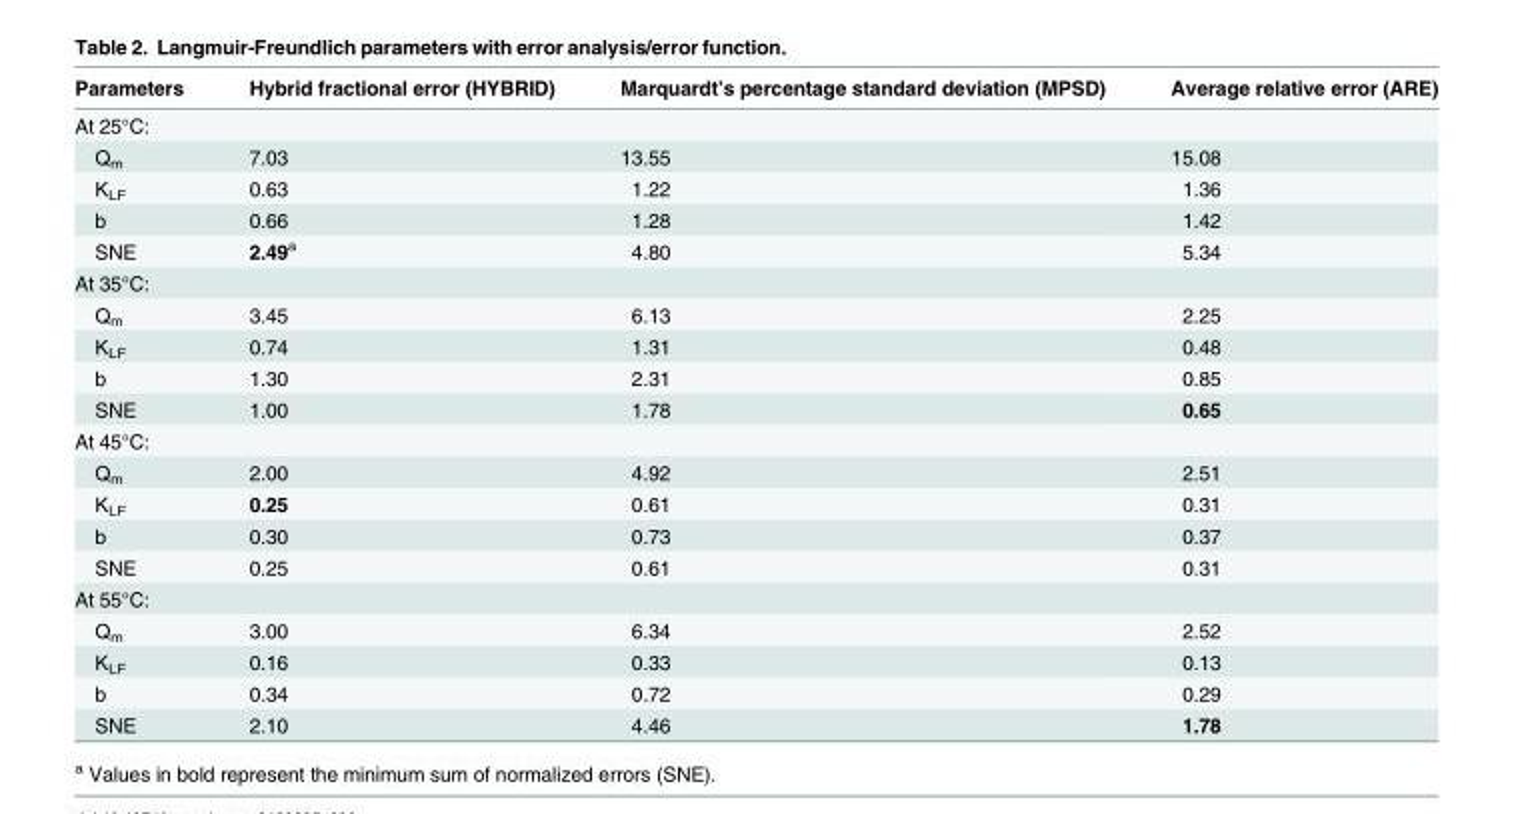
<table><thead><tr><td>Parameters</td><td>Hybrid fractional error (HYBRID)</td><td>Marquardt’s percentage standard deviation (MPSD)</td><td>Average relative error (ARE)</td></tr></thead><tbody><tr><td colspan="4">At 25°C:</td></tr><tr><td>Q<sub>m</sub></td><td>7.03</td><td>13.55</td><td>15.08</td></tr><tr><td>K<sub>LF</sub></td><td>0.63</td><td>1.22</td><td>1.36</td></tr><tr><td>b</td><td>0.66</td><td>1.28</td><td>1.42</td></tr><tr><td>SNE</td><td>2.49<sup>a</sup></td><td>4.80</td><td>5.34</td></tr><tr><td colspan="4">At 35°C:</td></tr><tr><td>Q<sub>m</sub></td><td>3.45</td><td>6.13</td><td>2.25</td></tr><tr><td>K<sub>LF</sub></td><td>0.74</td><td>1.31</td><td>0.48</td></tr><tr><td>b</td><td>1.30</td><td>2.31</td><td>0.85</td></tr><tr><td>SNE</td><td>1.00</td><td>1.78</td><td>0.65</td></tr><tr><td colspan="4">At 45°C:</td></tr><tr><td>Q<sub>m</sub></td><td>2.00</td><td>4.92</td><td>2.51</td></tr><tr><td>K<sub>LF</sub></td><td>0.25</td><td>0.61</td><td>0.31</td></tr><tr><td>b</td><td>0.30</td><td>0.73</td><td>0.37</td></tr><tr><td>SNE</td><td>0.25</td><td>0.61</td><td>0.31</td></tr><tr><td colspan="4">At 55°C:</td></tr><tr><td>Q<sub>m</sub></td><td>3.00</td><td>6.34</td><td>2.52</td></tr><tr><td>K<sub>LF</sub></td><td>0.16</td><td>0.33</td><td>0.13</td></tr><tr><td>b</td><td>0.34</td><td>0.72</td><td>0.29</td></tr><tr><td>SNE</td><td>2.10</td><td>4.46</td><td>1.78</td></tr></tbody></table>